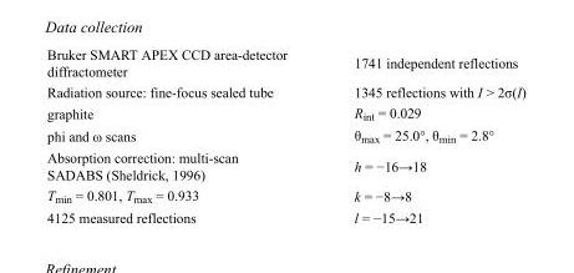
<table><tbody><tr><td>Bruker SMART APEX CCD area-detector diffractometer</td><td>1741 independent reflections</td></tr><tr><td>Radiation source: fine-focus sealed tube</td><td>1345 reflections with I &gt; 2σ(I)</td></tr><tr><td>graphite</td><td>R<sub>int</sub> = 0.029</td></tr><tr><td>phi and ω scans</td><td>θ<sub>max</sub> = 25.0°, θ<sub>min</sub> = 2.8°</td></tr><tr><td>Absorption correction: multi-scan SADABS (Sheldrick, 1996)</td><td>h = −16→18</td></tr><tr><td>T<sub>min</sub> = 0.801, T<sub>max</sub> = 0.933</td><td>k = −8→8</td></tr><tr><td>4125 measured reflections</td><td>l = −15→21</td></tr></tbody></table>